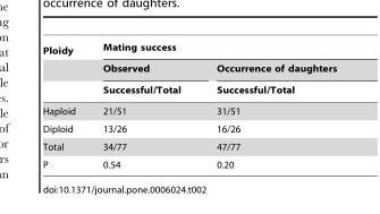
<table><thead><tr><td rowspan="3">Ploidy</td><td colspan="2">Mating success</td></tr><tr><td rowspan="2">Observed Successful/Total</td><td rowspan="2">Occurrence of daughters Successful/Total</td></tr><tr></tr></thead><tbody><tr><td>Haploid</td><td>21/51</td><td>31/51</td></tr><tr><td>Diploid</td><td>13/26</td><td>16/26</td></tr><tr><td>Total</td><td>34/77</td><td>47/77</td></tr><tr><td>P</td><td>0.54</td><td>0.20</td></tr></tbody></table>